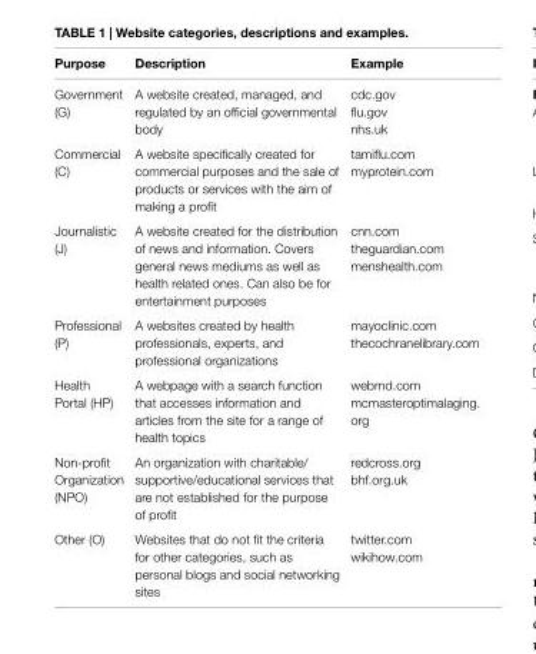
<table><thead><tr><td>Purpose</td><td>Description</td><td>example</td></tr></thead><tbody><tr><td rowspan="3">Government (G)</td><td rowspan="3">A website created, managed, and regulated by an official governmental body</td><td>cdc.gov</td></tr><tr><td>flu.gov</td></tr><tr><td>nhs.uk</td></tr><tr><td rowspan="2">Commercial (C)</td><td rowspan="2">A website specifically created for commercial purposes and the sale of products or services with the aim of making a profit</td><td>tamiflu.com</td></tr><tr><td>myprotein.com</td></tr><tr><td rowspan="3">Journalistic (J)</td><td rowspan="3">A website created for the distribution of news and information. Covers general news mediums as well as health related ones. Can also be for entertainment purposes</td><td>cnn.com</td></tr><tr><td>theguardian.com</td></tr><tr><td>menshealth.com</td></tr><tr><td rowspan="2">Professional (P)</td><td rowspan="2">A websites created by health professionals, experts, and professional organizations</td><td>mayoclinic.com</td></tr><tr><td>thecochranelibrary.com</td></tr><tr><td rowspan="2">Health Portal (HP)</td><td rowspan="2">A webpage with a search function that accesses information and articles from the site for a range of health topics</td><td>webmd.com</td></tr><tr><td>mcmasteroptimalaging. org</td></tr><tr><td rowspan="2">Non-profit Organization (NPO)</td><td rowspan="2">An organization with charitable/ supportive/educational services that are not established for the purpose of profit</td><td>redcross.org</td></tr><tr><td>bhf.org.uk</td></tr><tr><td rowspan="2">Other (O)</td><td rowspan="2">Websites that do not fit the criteria for other categories, such as personal blogs and social networking sites</td><td>twitter.com</td></tr><tr><td>wikihow.com</td></tr></tbody></table>